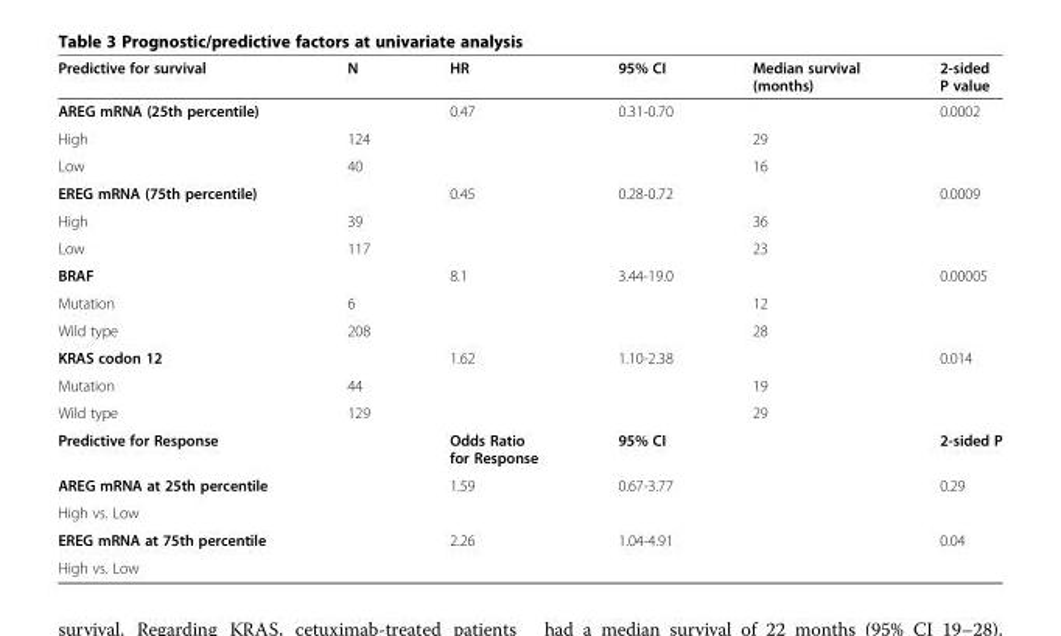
<table><thead><tr><td>Predictive for survival</td><td>N</td><td>HR</td><td>95% CI</td><td>Median survival (months)</td><td>2-sided P value</td></tr></thead><tbody><tr><td>AREG mRNA (25th percentile)</td><td></td><td>0.47</td><td>0.31-0.70</td><td></td><td>0.0002</td></tr><tr><td>High</td><td>124</td><td></td><td></td><td>29</td><td></td></tr><tr><td>Low</td><td>40</td><td></td><td></td><td>16</td><td></td></tr><tr><td>EREG mRNA (75th percentile)</td><td></td><td>0.45</td><td>0.28-0.72</td><td></td><td>0.0009</td></tr><tr><td>High</td><td>39</td><td></td><td></td><td>36</td><td></td></tr><tr><td>Low</td><td>117</td><td></td><td></td><td>23</td><td></td></tr><tr><td>BRAF</td><td></td><td>8.1</td><td>3.44-19.0</td><td></td><td>0.00005</td></tr><tr><td>Mutation</td><td>6</td><td></td><td></td><td>12</td><td></td></tr><tr><td>Wild type</td><td>208</td><td></td><td></td><td>28</td><td></td></tr><tr><td>KRAS codon 12</td><td></td><td>1.62</td><td>1.10-2.38</td><td></td><td>0.014</td></tr><tr><td>Mutation</td><td>44</td><td></td><td></td><td>19</td><td></td></tr><tr><td>Wild type</td><td>129</td><td></td><td></td><td>29</td><td></td></tr><tr><td>Predictive for Response</td><td></td><td>Odds Ratio for Response</td><td>95% CI</td><td></td><td>2-sided P</td></tr><tr><td>AREG mRNA at 25th percentile</td><td></td><td>1.59</td><td>0.67-3.77</td><td></td><td>0.29</td></tr><tr><td colspan="6">High vs. Low</td></tr><tr><td>EREG mRNA at 75th percentile</td><td></td><td>2.26</td><td>1.04-4.91</td><td></td><td>0.04</td></tr><tr><td>High vs. Low</td><td></td><td></td><td></td><td></td><td></td></tr></tbody></table>